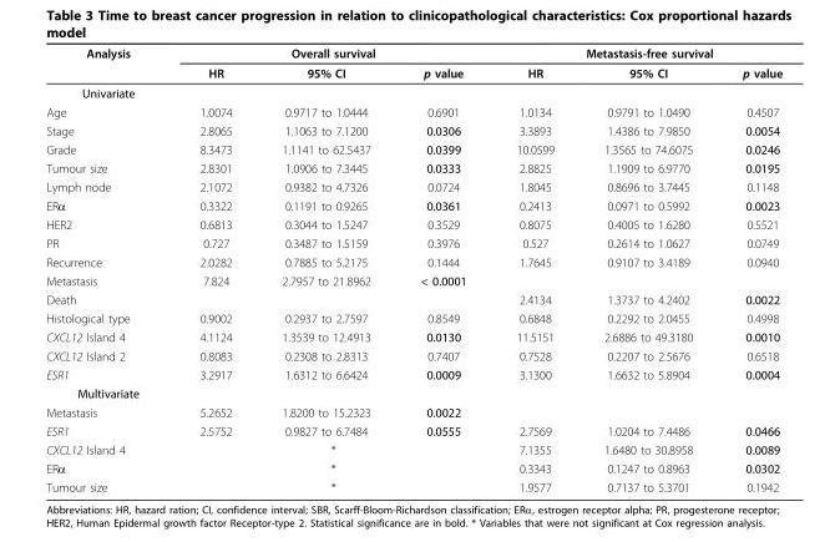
<table><thead><tr><td rowspan="2">Analysis</td><td colspan="3">Overall survival</td><td colspan="3">Metastasis-free survival</td></tr><tr><td>HR</td><td>95% CI</td><td>p value</td><td>HR</td><td>95% CI</td><td>p value</td></tr></thead><tbody><tr><td colspan="7">Univariate</td></tr><tr><td>Age</td><td>1.0074</td><td>0.9717 to 1.0444</td><td>0.6901</td><td>1.0134</td><td>0.9791 to 1.0490</td><td>0.4507</td></tr><tr><td>Stage</td><td>2.8065</td><td>1.1063 to 7.1200</td><td>0.0306</td><td>3.3893</td><td>1.4386 to 7.9850</td><td>0.0054</td></tr><tr><td>Grade</td><td>8.3473</td><td>1.1141 to 62.5437</td><td>0.0399</td><td>10.0599</td><td>1.3565 to 74.6075</td><td>0.0246</td></tr><tr><td>Tumour size</td><td>2.8301</td><td>1.0906 to 7.3445</td><td>0.0333</td><td>2.8825</td><td>1.1909 to 6.9770</td><td>0.0195</td></tr><tr><td>Lymph node</td><td>2.1072</td><td>0.9382 to 4.7326</td><td>0.0724</td><td>1.8045</td><td>0.8696 to 3.7445</td><td>0.1148</td></tr><tr><td>ERα</td><td>0.3322</td><td>0.1191 to 0.9265</td><td>0.0361</td><td>0.2413</td><td>0.0971 to 0.5992</td><td>0.0023</td></tr><tr><td>HER2</td><td>0.6813</td><td>0.3044 to 1.5247</td><td>0.3529</td><td>0.8075</td><td>0.4005 to 1.6280</td><td>0.5521</td></tr><tr><td>PR</td><td>0.727</td><td>0.3487 to 1.5159</td><td>0.3976</td><td>0.527</td><td>0.2614 to 1.0627</td><td>0.0749</td></tr><tr><td>Recurrence</td><td>2.0282</td><td>0.7885 to 5.2175</td><td>0.1444</td><td>1.7645</td><td>0.9107 to 3.4189</td><td>0.0940</td></tr><tr><td>Metastasis</td><td>7.824</td><td>2.7957 to 21.8962</td><td>&lt; 0.0001</td><td></td><td></td><td></td></tr><tr><td>Death</td><td></td><td></td><td></td><td>2.4134</td><td>1.3737 to 4.2402</td><td>0.0022</td></tr><tr><td>Histological type</td><td>0.9002</td><td>0.2937 to 2.7597</td><td>0.8549</td><td>0.6848</td><td>0.2292 to 2.0455</td><td>0.4998</td></tr><tr><td>CXCL12 Island 4</td><td>4.1124</td><td>1.3539 to 12.4913</td><td>0.0130</td><td>11.5151</td><td>2.6886 to 49.3180</td><td>0.0010</td></tr><tr><td>CXCL12 Island 2</td><td>0.8083</td><td>0.2308 to 2.8313</td><td>0.7407</td><td>0.7528</td><td>0.2207 to 2.5676</td><td>0.6518</td></tr><tr><td>ESR1</td><td>3.2917</td><td>1.6312 to 6.6424</td><td>0.0009</td><td>3.1300</td><td>1.6632 to 5.8904</td><td>0.0004</td></tr><tr><td colspan="7">Multivariate</td></tr><tr><td>Metastasis</td><td>5.2652</td><td>1.8200 to 15.2323</td><td>0.0022</td><td></td><td></td><td></td></tr><tr><td>ESR1</td><td>2.5752</td><td>0.9827 to 6.7484</td><td>0.0555</td><td>2.7569</td><td>1.0204 to 7.4486</td><td>0.0466</td></tr><tr><td>CXCL12 Island 4</td><td colspan="3">*</td><td>7.1355</td><td>1.6480 to 30.8958</td><td>0.0089</td></tr><tr><td>ERα</td><td colspan="3">*</td><td>0.3343</td><td>0.1247 to 0.8963</td><td>0.0302</td></tr><tr><td>Tumour size</td><td colspan="3">*</td><td>1.9577</td><td>0.7137 to 5.3701</td><td>0.1942</td></tr></tbody></table>